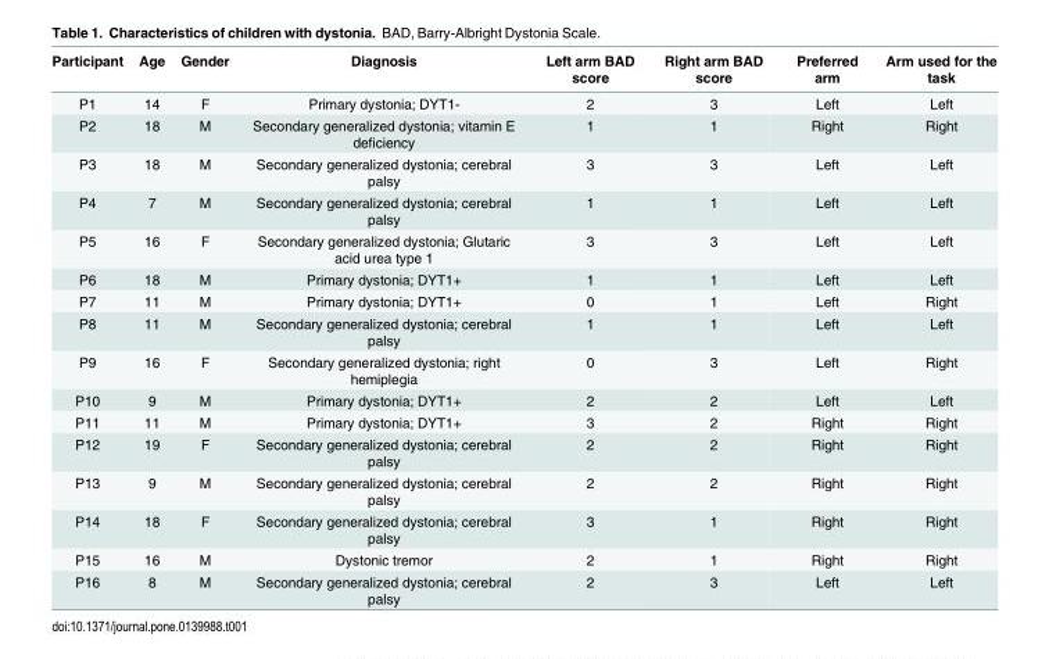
<table><thead><tr><td>Participant</td><td>Age</td><td>Gender</td><td>Diagnosis</td><td>Left arm BAD score</td><td>Right arm BAD score</td><td>Preferred arm</td><td>Arm used for the task</td></tr></thead><tbody><tr><td>P1</td><td>14</td><td>F</td><td>Primary dystonia; DYT1-</td><td>2</td><td>3</td><td>Left</td><td>Left</td></tr><tr><td>P2</td><td>18</td><td>M</td><td>Secondary generalized dystonia; vitamin E deficiency</td><td>1</td><td>1</td><td>Right</td><td>Right</td></tr><tr><td>P3</td><td>18</td><td>M</td><td>Secondary generalized dystonia; cerebral palsy</td><td>3</td><td>3</td><td>Left</td><td>Left</td></tr><tr><td>P4</td><td>7</td><td>M</td><td>Secondary generalized dystonia; cerebral palsy</td><td>1</td><td>1</td><td>Left</td><td>Left</td></tr><tr><td>P5</td><td>16</td><td>F</td><td>Secondary generalized dystonia; Glutaric acid urea type 1</td><td>3</td><td>3</td><td>Left</td><td>Left</td></tr><tr><td>P6</td><td>18</td><td>M</td><td>Primary dystonia; DYT1+</td><td>1</td><td>1</td><td>Left</td><td>Left</td></tr><tr><td>P7</td><td>11</td><td>M</td><td>Primary dystonia; DYT1+</td><td>0</td><td>1</td><td>Left</td><td>Right</td></tr><tr><td>P8</td><td>11</td><td>M</td><td>Secondary generalized dystonia; cerebral palsy</td><td>1</td><td>1</td><td>Left</td><td>Left</td></tr><tr><td>P9</td><td>16</td><td>F</td><td>Secondary generalized dystonia; right hemiplegia</td><td>0</td><td>3</td><td>Left</td><td>Right</td></tr><tr><td>P10</td><td>9</td><td>M</td><td>Primary dystonia; DYT1+</td><td>2</td><td>2</td><td>Left</td><td>Left</td></tr><tr><td>P11</td><td>11</td><td>M</td><td>Primary dystonia; DYT1+</td><td>3</td><td>2</td><td>Right</td><td>Right</td></tr><tr><td>P12</td><td>19</td><td>F</td><td>Secondary generalized dystonia; cerebral palsy</td><td>2</td><td>2</td><td>Right</td><td>Right</td></tr><tr><td>P13</td><td>9</td><td>M</td><td>Secondary generalized dystonia; cerebral palsy</td><td>2</td><td>2</td><td>Right</td><td>Right</td></tr><tr><td>P14</td><td>18</td><td>F</td><td>Secondary generalized dystonia; cerebral palsy</td><td>3</td><td>1</td><td>Right</td><td>Right</td></tr><tr><td>P15</td><td>16</td><td>M</td><td>Dystonic tremor</td><td>2</td><td>1</td><td>Right</td><td>Right</td></tr><tr><td>P16</td><td>8</td><td>M</td><td>Secondary generalized dystonia; cerebral palsy</td><td>2</td><td>3</td><td>Left</td><td>Left</td></tr></tbody></table>